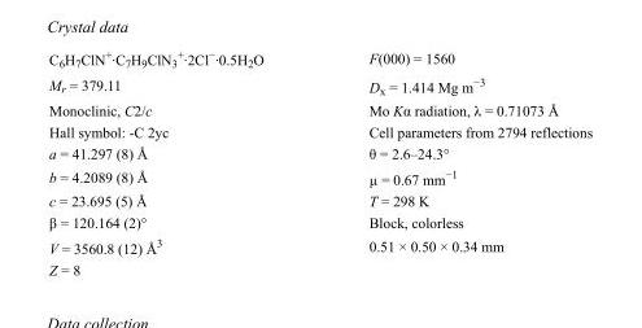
<table><tbody><tr><td>C<sub>6</sub>H<sub>7</sub>ClN<sup>+</sup>·C<sub>7</sub>H<sub>9</sub>ClN<sub>3</sub> <sup>+</sup>·2Cl<sup>−</sup>·0.5H<sub>2</sub>O</td><td>F(000) = 1560</td></tr><tr><td>M<sub>r</sub> = 379.11</td><td>D<sub>x</sub> = 1.414 Mg m<sup>−3</sup></td></tr><tr><td>Monoclinic, C2/c</td><td>Mo Kα radiation, λ = 0.71073 Å</td></tr><tr><td>Hall symbol: -C 2yc</td><td>Cell parameters from 2794 reflections</td></tr><tr><td>a = 41.297 (8) Å</td><td>θ = 2.6–24.3°</td></tr><tr><td>b = 4.2089 (8) Å</td><td>µ = 0.67 mm<sup>−1</sup></td></tr><tr><td>c = 23.695 (5) Å</td><td>T = 298 K</td></tr><tr><td>β = 120.164 (2)°</td><td>Block, colorless</td></tr><tr><td>V = 3560.8 (12) Å<sup>3</sup></td><td>0.51 × 0.50 × 0.34 mm</td></tr><tr><td>Z = 8</td><td></td></tr></tbody></table>